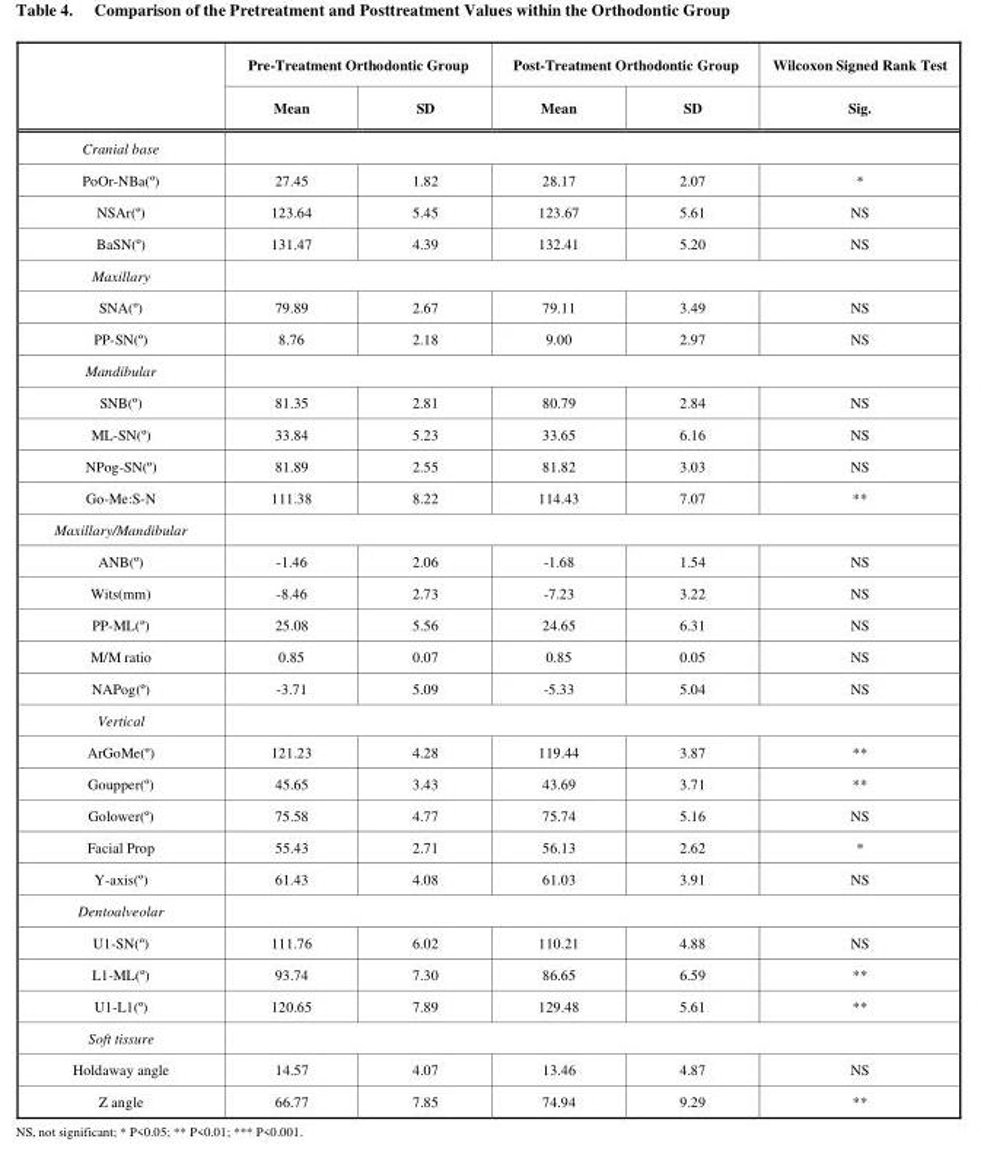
<table><thead><tr><td rowspan="2"></td><td colspan="2">Pre-Treatment Orthodontic Group</td><td colspan="2">Post-Treatment Orthodontic Group</td><td rowspan="2">Wilcoxon Signed Rank Test Sig.</td></tr><tr><td>Mean</td><td>SD</td><td>Mean</td><td>SD</td></tr></thead><tbody><tr><td colspan="6">Cranial base</td></tr><tr><td>PoOr-NBa(º)</td><td>27.45</td><td>1.82</td><td>28.17</td><td>2.07</td><td>*</td></tr><tr><td>NSAr(º)</td><td>123.64</td><td>5.45</td><td>123.67</td><td>5.61</td><td>NS</td></tr><tr><td>BaSN(º)</td><td>131.47</td><td>4.39</td><td>132.41</td><td>5.20</td><td>NS</td></tr><tr><td colspan="6">Maxillary</td></tr><tr><td>SNA(º)</td><td>79.89</td><td>2.67</td><td>79.11</td><td>3.49</td><td>NS</td></tr><tr><td>PP-SN(º)</td><td>8.76</td><td>2.18</td><td>9.00</td><td>2.97</td><td>NS</td></tr><tr><td colspan="6">Mandibular</td></tr><tr><td>SNB(º)</td><td>81.35</td><td>2.81</td><td>80.79</td><td>2.84</td><td>NS</td></tr><tr><td>ML-SN(º)</td><td>33.84</td><td>5.23</td><td>33.65</td><td>6.16</td><td>NS</td></tr><tr><td>NPog-SN(º)</td><td>81.89</td><td>2.55</td><td>81.82</td><td>3.03</td><td>NS</td></tr><tr><td>Go-Me:S-N</td><td>111.38</td><td>8.22</td><td>114.43</td><td>7.07</td><td>**</td></tr><tr><td colspan="6">Maxillary/Mandibular</td></tr><tr><td>ANB(º)</td><td>-1.46</td><td>2.06</td><td>-1.68</td><td>1.54</td><td>NS</td></tr><tr><td>Wits(mm)</td><td>-8.46</td><td>2.73</td><td>-7.23</td><td>3.22</td><td>NS</td></tr><tr><td>PP-ML(º)</td><td>25.08</td><td>5.56</td><td>24.65</td><td>6.31</td><td>NS</td></tr><tr><td>M/M ratio</td><td>0.85</td><td>0.07</td><td>0.85</td><td>0.05</td><td>NS</td></tr><tr><td>NAPog(º)</td><td>-3.71</td><td>5.09</td><td>-5.33</td><td>5.04</td><td>NS</td></tr><tr><td colspan="6">Vertical</td></tr><tr><td>ArGoMe(º)</td><td>121.23</td><td>4.28</td><td>119.44</td><td>3.87</td><td>**</td></tr><tr><td>Goupper(º)</td><td>45.65</td><td>3.43</td><td>43.69</td><td>3.71</td><td>**</td></tr><tr><td>Golower(º)</td><td>75.58</td><td>4.77</td><td>75.74</td><td>5.16</td><td>NS</td></tr><tr><td>Facial Prop</td><td>55.43</td><td>2.71</td><td>56.13</td><td>2.62</td><td>*</td></tr><tr><td>Y-axis(º)</td><td>61.43</td><td>4.08</td><td>61.03</td><td>3.91</td><td>NS</td></tr><tr><td colspan="6">Dentoalveolar</td></tr><tr><td>U1-SN(º)</td><td>111.76</td><td>6.02</td><td>110.21</td><td>4.88</td><td>NS</td></tr><tr><td>L1-ML(º)</td><td>93.74</td><td>7.30</td><td>86.65</td><td>6.59</td><td>**</td></tr><tr><td>U1-L1(º)</td><td>120.65</td><td>7.89</td><td>129.48</td><td>5.61</td><td>**</td></tr><tr><td colspan="6">Soft tissure</td></tr><tr><td>Holdaway angle</td><td>14.57</td><td>4.07</td><td>13.46</td><td>4.87</td><td>NS</td></tr><tr><td>Z angle</td><td>66.77</td><td>7.85</td><td>74.94</td><td>9.29</td><td>**</td></tr></tbody></table>